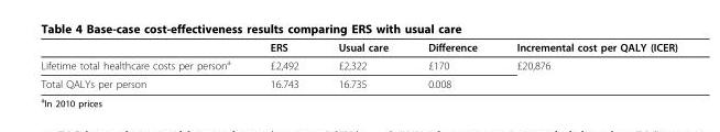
<table><thead><tr><td></td><td>ERS</td><td>Usual care</td><td>Difference</td><td>Incremental cost per QALY (ICER)</td></tr></thead><tbody><tr><td>Lifetime total healthcare costs per person<sup>a</sup></td><td>£2,492</td><td>£2,322</td><td>£170</td><td>£20,876</td></tr><tr><td>Total QALYs per person</td><td>16.743</td><td>16.735</td><td>0.008</td><td></td></tr></tbody></table>